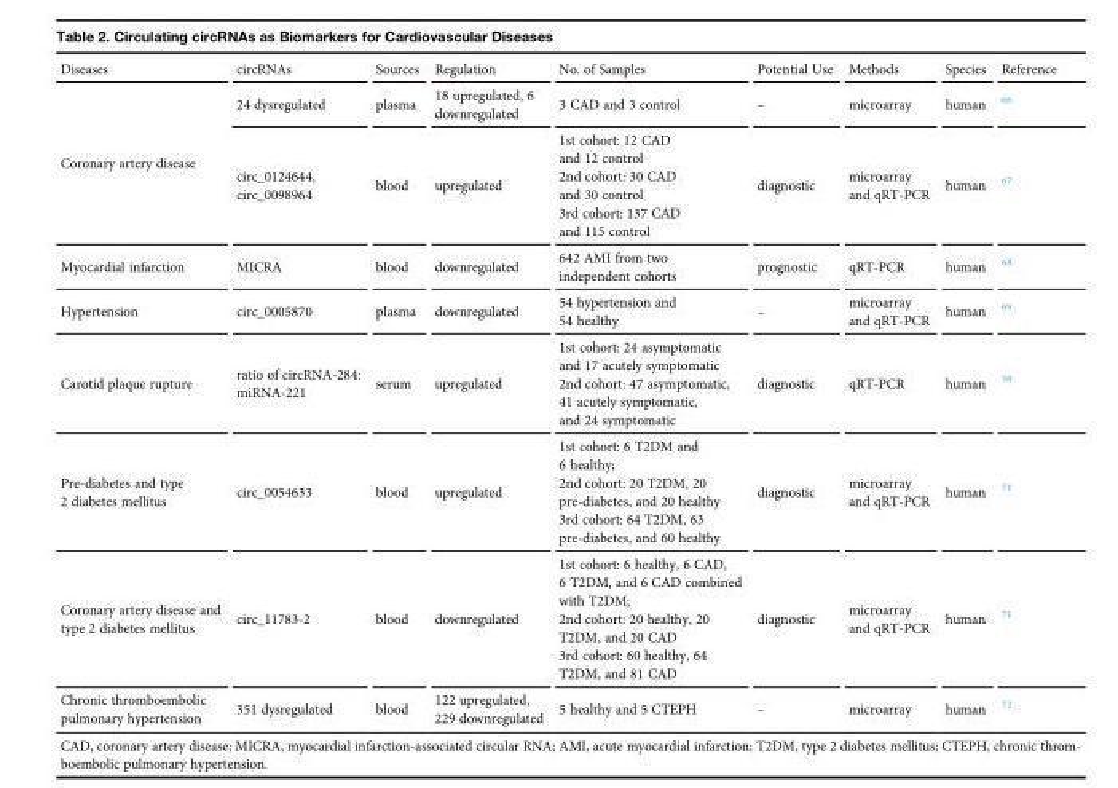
<table><thead><tr><td>Diseases</td><td>circRNAs</td><td>Sources</td><td>Regulation</td><td>No. of Samples</td><td>Potential Use</td><td>Methods</td><td>Species</td><td>Reference</td></tr></thead><tbody><tr><td rowspan="2">Coronary artery disease</td><td>24 dysregulated</td><td>plasma</td><td>18 upregulated, 6 downregulated</td><td>3 CAD and 3 control</td><td>–</td><td>microarray</td><td>human</td><td><sup>66</sup></td></tr><tr><td>circ_0124644, circ_0098964</td><td>blood</td><td>upregulated</td><td>1st cohort: 12 CAD and 12 control 2nd cohort: 30 CAD and 30 control 3rd cohort: 137 CAD and 115 control</td><td>diagnostic</td><td>microarray and qRT-PCR</td><td>human</td><td><sup>67</sup></td></tr><tr><td>Myocardial infarction</td><td>MICRA</td><td>blood</td><td>downregulated</td><td>642 AMI from two independent cohorts</td><td>prognostic</td><td>qRT-PCR</td><td>human</td><td><sup>68</sup></td></tr><tr><td>Hypertension</td><td>circ_0005870</td><td>plasma</td><td>downregulated</td><td>54 hypertension and 54 healthy</td><td>–</td><td>microarray and qRT-PCR</td><td>human</td><td><sup>69</sup></td></tr><tr><td>Carotid plaque rupture</td><td>ratio of circRNA-284: miRNA-221</td><td>serum</td><td>upregulated</td><td>1st cohort: 24 asymptomatic and 17 acutely symptomatic 2nd cohort: 47 asymptomatic, 41 acutely symptomatic, and 24 symptomatic</td><td>diagnostic</td><td>qRT-PCR</td><td>human</td><td><sup>70</sup></td></tr><tr><td>Pre-diabetes and type 2 diabetes mellitus</td><td>circ_0054633</td><td>blood</td><td>upregulated</td><td>1st cohort: 6 T2DM and 6 healthy; 2nd cohort: 20 T2DM, 20 pre-diabetes, and 20 healthy 3rd cohort: 64 T2DM, 63 pre-diabetes, and 60 healthy</td><td>diagnostic</td><td>microarray and qRT-PCR</td><td>human</td><td><sup>71</sup></td></tr><tr><td>Coronary artery disease and type 2 diabetes mellitus</td><td>circ_11783-2</td><td>blood</td><td>downregulated</td><td>1st cohort: 6 healthy, 6 CAD, 6 T2DM, and 6 CAD combined with T2DM; 2nd cohort: 20 healthy, 20 T2DM, and 20 CAD 3rd cohort: 60 healthy, 64 T2DM, and 81 CAD</td><td>diagnostic</td><td>microarray and qRT-PCR</td><td>human</td><td><sup>71</sup></td></tr><tr><td>Chronic thromboembolic pulmonary hypertension</td><td>351 dysregulated</td><td>blood</td><td>122 upregulated, 229 downregulated</td><td>5 healthy and 5 CTEPH</td><td>–</td><td>microarray</td><td>human</td><td><sup>72</sup></td></tr></tbody></table>